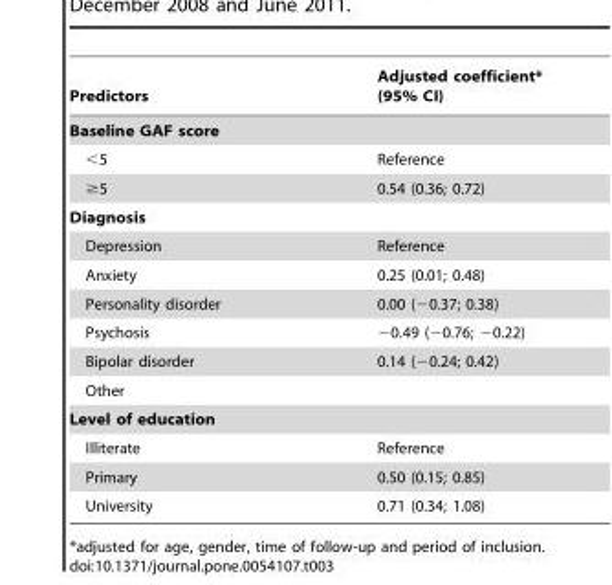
<table><thead><tr><td>Predictors</td><td>Adjusted coefficient* (95% CI)</td></tr></thead><tbody><tr><td colspan="2">Baseline GAF score</td></tr><tr><td>&lt;5</td><td>Reference</td></tr><tr><td>≥5</td><td>0.54 (0.36; 0.72)</td></tr><tr><td colspan="2">Diagnosis</td></tr><tr><td>Depression</td><td>Reference</td></tr><tr><td>Anxiety</td><td>0.25 (0.01; 0.48)</td></tr><tr><td>Personality disorder</td><td>0.00 (−0.37; 0.38)</td></tr><tr><td>Psychosis</td><td>−0.49 (−0.76; −0.22)</td></tr><tr><td>Bipolar disorder</td><td>0.14 (−0.24; 0.42)</td></tr><tr><td colspan="2">Other</td></tr><tr><td colspan="2">Level of education</td></tr><tr><td>Illiterate</td><td>Reference</td></tr><tr><td>Primary</td><td>0.50 (0.15; 0.85)</td></tr><tr><td>University</td><td>0.71 (0.34; 1.08)</td></tr></tbody></table>